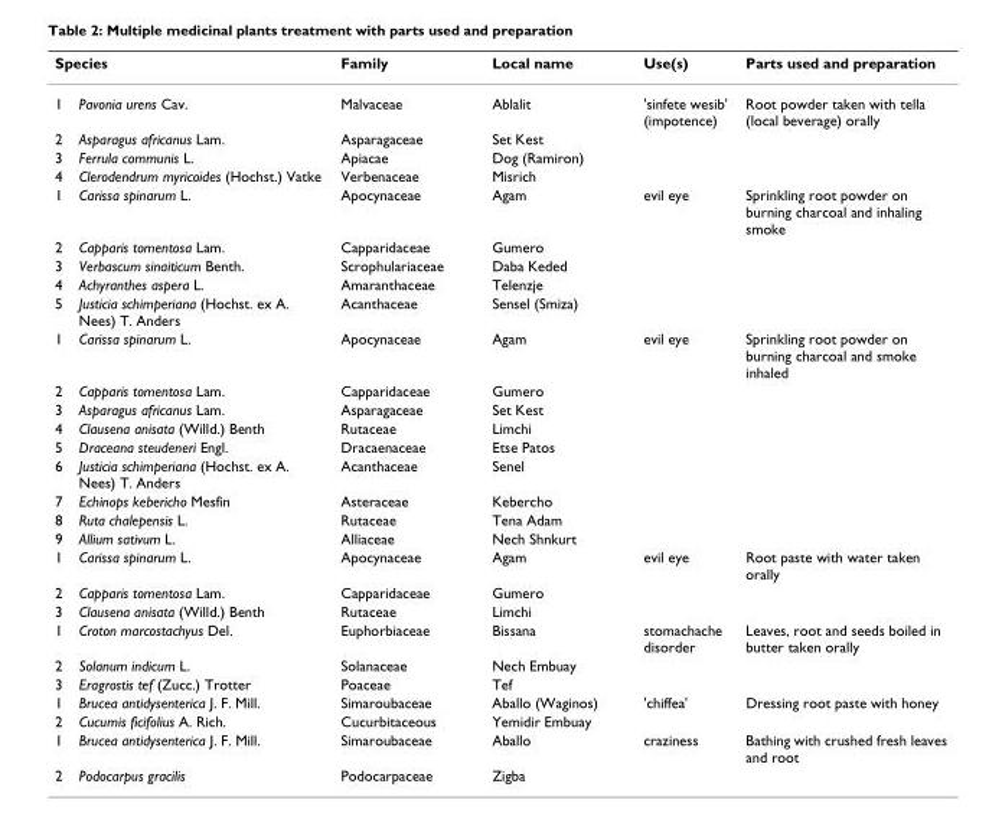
<table><thead><tr><td colspan="2">Species</td><td rowspan="2">Family Malvaceae</td><td rowspan="2">Local name Ablalit</td><td rowspan="2">Use(s) &#x27;sinfete wesib&#x27; (impotence)</td><td rowspan="2">Parts used and preparation Root powder taken with tella (local beverage) orally</td></tr><tr><td>1</td><td>Pavonia urens Cav.</td></tr></thead><tbody><tr><td>2</td><td>Asparagus africanus Lam.</td><td>Asparagaceae</td><td>Set Kest</td><td></td><td></td></tr><tr><td>3</td><td>Ferrula communis L.</td><td>Apiacae</td><td>Dog (Ramiron)</td><td></td><td></td></tr><tr><td>4</td><td>Clerodendrum myricoides (Hochst.) Vatke</td><td>Verbenaceae</td><td>Misrich</td><td></td><td></td></tr><tr><td>1</td><td>Carissa spinarum L.</td><td>Apocynaceae</td><td>Agam</td><td>evil eye</td><td>Sprinkling root powder on burning charcoal and inhaling smoke</td></tr><tr><td>2</td><td>Capparis tomentosa Lam.</td><td>Capparidaceae</td><td>Gumero</td><td></td><td></td></tr><tr><td>3</td><td>Verbascum sinaiticum Benth.</td><td>Scrophulariaceae</td><td>Daba Keded</td><td></td><td></td></tr><tr><td>4</td><td>Achyranthes aspera L.</td><td>Amaranthaceae</td><td>Telenzje</td><td></td><td></td></tr><tr><td>5</td><td>Justicia schimperiana (Hochst. ex A. Nees) T. Anders</td><td>Acanthaceae</td><td>Sensel (Smiza)</td><td></td><td></td></tr><tr><td>1</td><td>Carissa spinarum L.</td><td>Apocynaceae</td><td>Agam</td><td>evil eye</td><td>Sprinkling root powder on burning charcoal and smoke inhaled</td></tr><tr><td>2</td><td>Capparis tomentosa Lam.</td><td>Capparidaceae</td><td>Gumero</td><td></td><td></td></tr><tr><td>3</td><td>Asparagus africanus Lam.</td><td>Asparagaceae</td><td>Set Kest</td><td></td><td></td></tr><tr><td>4</td><td>Clausena anisata (Willd.) Benth</td><td>Rutaceae</td><td>Limchi</td><td></td><td></td></tr><tr><td>5</td><td>Draceana steudeneri Engl.</td><td>Dracaenaceae</td><td>Etse Patos</td><td></td><td></td></tr><tr><td>6</td><td>Justicia schimperiana (Hochst. ex A. Nees) T. Anders</td><td>Acanthaceae</td><td>Senel</td><td></td><td></td></tr><tr><td>7</td><td>Echinops kebericho Mesfin</td><td>Asteraceae</td><td>Kebercho</td><td></td><td></td></tr><tr><td>8</td><td>Ruta chalepensis L.</td><td>Rutaceae</td><td>Tena Adam</td><td></td><td></td></tr><tr><td>9</td><td>Allium sativum L.</td><td>Alliaceae</td><td>Nech Shnkurt</td><td></td><td></td></tr><tr><td>1</td><td>Carissa spinarum L.</td><td>Apocynaceae</td><td>Agam</td><td>evil eye</td><td>Root paste with water taken orally</td></tr><tr><td>2</td><td>Capparis tomentosa Lam.</td><td>Capparidaceae</td><td>Gumero</td><td></td><td></td></tr><tr><td>3</td><td>Clausena anisata (Willd.) Benth</td><td>Rutaceae</td><td>Limchi</td><td></td><td></td></tr><tr><td>1</td><td>Croton marcostachyus Del.</td><td>Euphorbiaceae</td><td>Bissana</td><td>stomachache disorder</td><td>Leaves, root and seeds boiled in butter taken orally</td></tr><tr><td>2</td><td>Solanum indicum L.</td><td>Solanaceae</td><td>Nech Embuay</td><td></td><td></td></tr><tr><td>3</td><td>Eragrostis tef (Zucc.) Trotter</td><td>Poaceae</td><td>Tef</td><td></td><td></td></tr><tr><td>1</td><td>Brucea antidysenterica J. F. Mill.</td><td>Simaroubaceae</td><td>Aballo (Waginos)</td><td>&#x27;chiffea&#x27;</td><td>Dressing root paste with honey</td></tr><tr><td>2</td><td>Cucumis ficifolius A. Rich.</td><td>Cucurbitaceous</td><td>Yemidir Embuay</td><td></td><td></td></tr><tr><td>1</td><td>Brucea antidysenterica J. F. Mill.</td><td>Simaroubaceae</td><td>Aballo</td><td>craziness</td><td>Bathing with crushed fresh leaves and root</td></tr><tr><td>2</td><td>Podocarpus gracilis</td><td>Podocarpaceae</td><td>Zigba</td><td></td><td></td></tr></tbody></table>